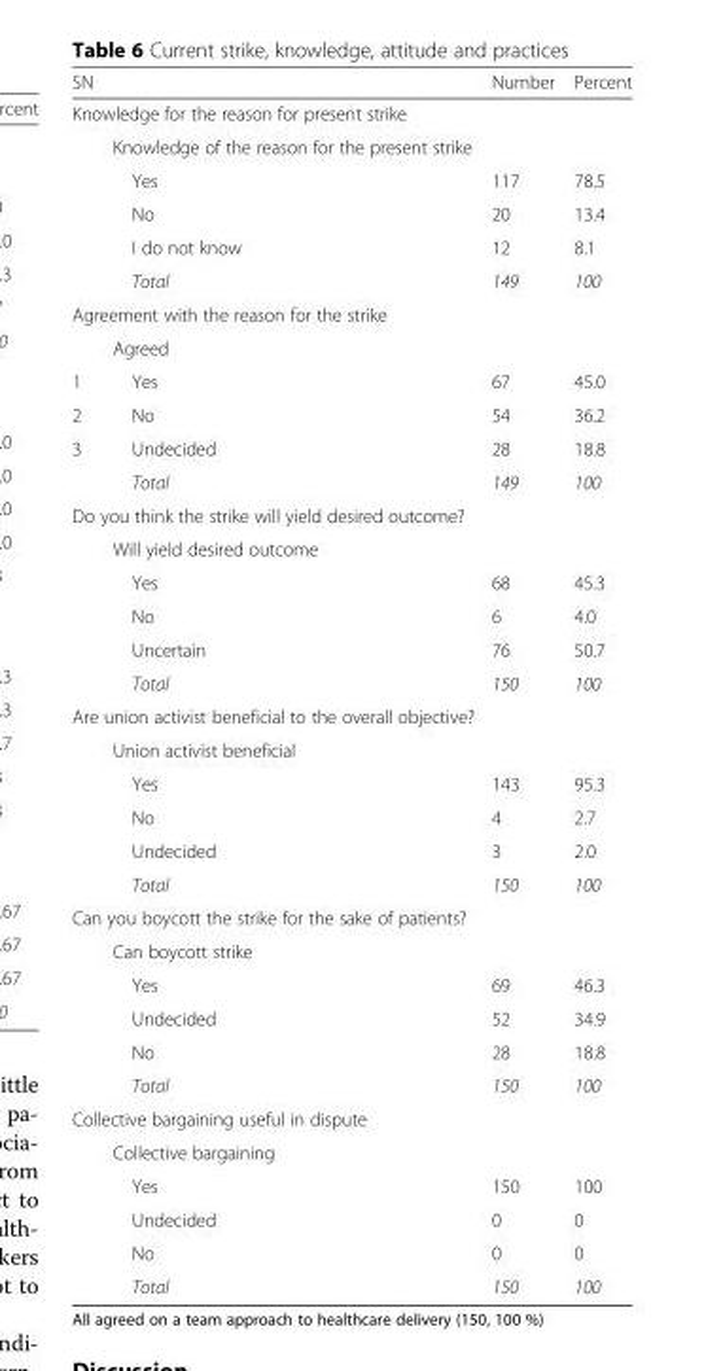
<table><thead><tr><td>SN</td><td></td><td>Number</td><td>Percent</td></tr></thead><tbody><tr><td colspan="4">Knowledge for the reason for present strike</td></tr><tr><td></td><td>Knowledge of the reason for the present strike</td><td></td><td></td></tr><tr><td></td><td>Yes</td><td>117</td><td>78.5</td></tr><tr><td></td><td>No</td><td>20</td><td>13.4</td></tr><tr><td></td><td>I do not know</td><td>12</td><td>8.1</td></tr><tr><td></td><td>Total</td><td>149</td><td>100</td></tr><tr><td colspan="4">Agreement with the reason for the strike</td></tr><tr><td></td><td>Agreed</td><td></td><td></td></tr><tr><td>1</td><td>Yes</td><td>67</td><td>45.0</td></tr><tr><td>2</td><td>No</td><td>54</td><td>36.2</td></tr><tr><td rowspan="2">3</td><td>Undecided</td><td>28</td><td>18.8</td></tr><tr><td>Total</td><td>149</td><td>100</td></tr><tr><td colspan="4">Do you think the strike will yield desired outcome?</td></tr><tr><td></td><td>Will yield desired outcome</td><td></td><td></td></tr><tr><td></td><td>Yes</td><td>68</td><td>45.3</td></tr><tr><td></td><td>No</td><td>6</td><td>4.0</td></tr><tr><td></td><td>Uncertain</td><td>76</td><td>50.7</td></tr><tr><td></td><td>Total</td><td>150</td><td>100</td></tr><tr><td colspan="4">Are union activist beneficial to the overall objective?</td></tr><tr><td></td><td>Union activist beneficial</td><td></td><td></td></tr><tr><td></td><td>Yes</td><td>143</td><td>95.3</td></tr><tr><td></td><td>No</td><td>4</td><td>2.7</td></tr><tr><td></td><td>Undecided</td><td>3</td><td>2.0</td></tr><tr><td></td><td>Total</td><td>150</td><td>100</td></tr><tr><td colspan="4">Can you boycott the strike for the sake of patients?</td></tr><tr><td></td><td>Can boycott strike</td><td></td><td></td></tr><tr><td></td><td>Yes</td><td>69</td><td>46.3</td></tr><tr><td></td><td>Undecided</td><td>52</td><td>34.9</td></tr><tr><td></td><td>No</td><td>28</td><td>18.8</td></tr><tr><td></td><td>Total</td><td>150</td><td>100</td></tr><tr><td colspan="4">Collective bargaining useful in dispute</td></tr><tr><td></td><td>Collective bargaining</td><td></td><td></td></tr><tr><td></td><td>Yes</td><td>150</td><td>100</td></tr><tr><td></td><td>Undecided</td><td>0</td><td>0</td></tr><tr><td></td><td>No</td><td>0</td><td>0</td></tr><tr><td></td><td>Total</td><td>150</td><td>100</td></tr></tbody></table>